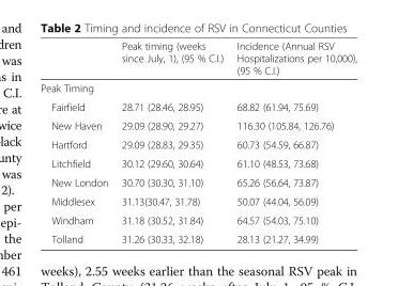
<table><thead><tr><td></td><td>Peak timing (weeks since July, 1), (95 % C.I.)</td><td>Incidence (Annual RSV Hospitalizations per 10,000), (95 % C.I.)</td></tr></thead><tbody><tr><td colspan="3">Peak Timing</td></tr><tr><td>Fairfield</td><td>28.71 (28.46, 28.95)</td><td>68.82 (61.94, 75.69)</td></tr><tr><td>New Haven</td><td>29.09 (28.90, 29.27)</td><td>116.30 (105.84, 126.76)</td></tr><tr><td>Hartford</td><td>29.09 (28.83, 29.35)</td><td>60.73 (54.59, 66.87)</td></tr><tr><td>Litchfield</td><td>30.12 (29.60, 30.64)</td><td>61.10 (48.53, 73.68)</td></tr><tr><td>New London</td><td>30.70 (30.30, 31.10)</td><td>65.26 (56.64, 73.87)</td></tr><tr><td>Middlesex</td><td>31.13(30.47, 31.78)</td><td>50.07 (44.04, 56.09)</td></tr><tr><td>Windham</td><td>31.18 (30.52, 31.84)</td><td>64.57 (54.03, 75.10)</td></tr><tr><td>Tolland</td><td>31.26 (30.33, 32.18)</td><td>28.13 (21.27, 34.99)</td></tr></tbody></table>